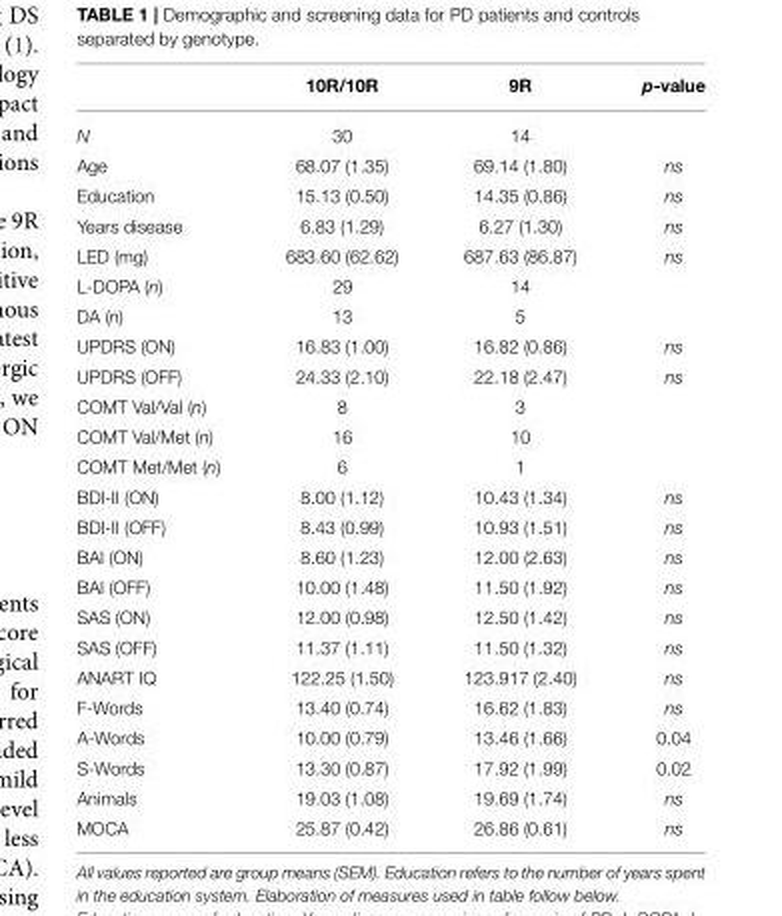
<table><thead><tr><td></td><td>10R/10R</td><td>9R</td><td>p-value</td></tr></thead><tbody><tr><td>N</td><td>30</td><td>14</td><td></td></tr><tr><td>Age</td><td>68.07 (1.35)</td><td>69.14 (1.80)</td><td>ns</td></tr><tr><td>Education</td><td>15.13 (0.50)</td><td>14.35 (0.86)</td><td>ns</td></tr><tr><td>Years disease</td><td>6.83 (1.29)</td><td>6.27 (1.30)</td><td>ns</td></tr><tr><td>LED (mg)</td><td>683.60 (62.62)</td><td>687.63 (86.87)</td><td>ns</td></tr><tr><td>L-DOPA (n)</td><td>29</td><td>14</td><td></td></tr><tr><td>DA (n)</td><td>13</td><td>5</td><td></td></tr><tr><td>UPDRS (ON)</td><td>16.83 (1.00)</td><td>16.82 (0.86)</td><td>ns</td></tr><tr><td>UPDRS (OFF)</td><td>24.33 (2.10)</td><td>22.18 (2.47)</td><td>ns</td></tr><tr><td>COMT Val/Val (n)</td><td>8</td><td>3</td><td></td></tr><tr><td>COMT Val/Met (n)</td><td>16</td><td>10</td><td></td></tr><tr><td>COMT Met/Met (n)</td><td>6</td><td>1</td><td></td></tr><tr><td>BDI-II (ON)</td><td>8.00 (1.12)</td><td>10.43 (1.34)</td><td>ns</td></tr><tr><td>BDI-II (OFF)</td><td>8.43 (0.99)</td><td>10.93 (1.51)</td><td>ns</td></tr><tr><td>BAI (ON)</td><td>8.60 (1.23)</td><td>12.00 (2.63)</td><td>ns</td></tr><tr><td>BAI (OFF)</td><td>10.00 (1.48)</td><td>11.50 (1.92)</td><td>ns</td></tr><tr><td>SAS (ON)</td><td>12.00 (0.98)</td><td>12.50 (1.42)</td><td>ns</td></tr><tr><td>SAS (OFF)</td><td>11.37 (1.11)</td><td>11.50 (1.32)</td><td>ns</td></tr><tr><td>ANART IQ</td><td>122.25 (1.50)</td><td>123.917 (2.40)</td><td>ns</td></tr><tr><td>F-Words</td><td>13.40 (0.74)</td><td>16.62 (1.83)</td><td>ns</td></tr><tr><td>A-Words</td><td>10.00 (0.79)</td><td>13.46 (1.66)</td><td>0.04</td></tr><tr><td>S-Words</td><td>13.30 (0.87)</td><td>17.92 (1.99)</td><td>0.02</td></tr><tr><td>Animals</td><td>19.03 (1.08)</td><td>19.69 (1.74)</td><td>ns</td></tr><tr><td>MOCA</td><td>25.87 (0.42)</td><td>26.86 (0.61)</td><td>ns</td></tr></tbody></table>